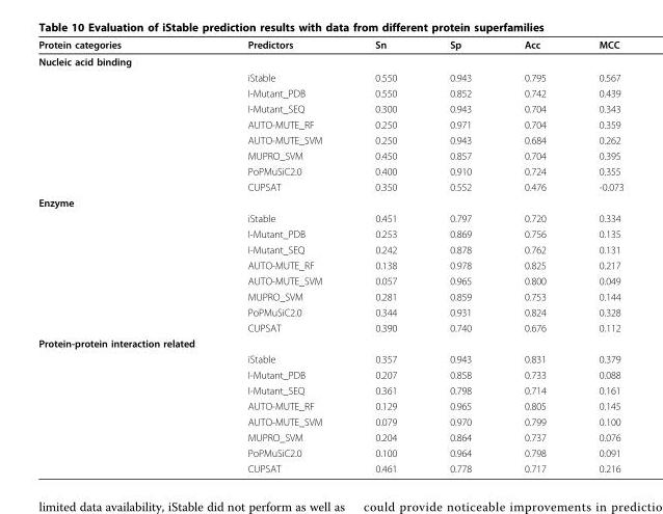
<table><thead><tr><td>Protein categories</td><td>Predictors</td><td>Sn</td><td>Sp</td><td>Acc</td><td>MCC</td></tr></thead><tbody><tr><td colspan="6">Nucleic acid binding</td></tr><tr><td></td><td>iStable</td><td>0.550</td><td>0.943</td><td>0.795</td><td>0.567</td></tr><tr><td></td><td>I-Mutant_PDB</td><td>0.550</td><td>0.852</td><td>0.742</td><td>0.439</td></tr><tr><td></td><td>I-Mutant_SEQ</td><td>0.300</td><td>0.943</td><td>0.704</td><td>0.343</td></tr><tr><td></td><td>AUTO-MUTE_RF</td><td>0.250</td><td>0.971</td><td>0.704</td><td>0.359</td></tr><tr><td></td><td>AUTO-MUTE_SVM</td><td>0.250</td><td>0.943</td><td>0.684</td><td>0.262</td></tr><tr><td></td><td>MUPRO_SVM</td><td>0.450</td><td>0.857</td><td>0.704</td><td>0.395</td></tr><tr><td></td><td>PoPMuSiC2.0</td><td>0.400</td><td>0.910</td><td>0.724</td><td>0.355</td></tr><tr><td></td><td>CUPSAT</td><td>0.350</td><td>0.552</td><td>0.476</td><td>-0.073</td></tr><tr><td colspan="6">Enzyme</td></tr><tr><td></td><td>iStable</td><td>0.451</td><td>0.797</td><td>0.720</td><td>0.334</td></tr><tr><td></td><td>I-Mutant_PDB</td><td>0.253</td><td>0.869</td><td>0.756</td><td>0.135</td></tr><tr><td></td><td>I-Mutant_SEQ</td><td>0.242</td><td>0.878</td><td>0.762</td><td>0.131</td></tr><tr><td></td><td>AUTO-MUTE_RF</td><td>0.138</td><td>0.978</td><td>0.825</td><td>0.217</td></tr><tr><td></td><td>AUTO-MUTE_SVM</td><td>0.057</td><td>0.965</td><td>0.800</td><td>0.049</td></tr><tr><td></td><td>MUPRO_SVM</td><td>0.281</td><td>0.859</td><td>0.753</td><td>0.144</td></tr><tr><td></td><td>PoPMuSiC2.0</td><td>0.344</td><td>0.931</td><td>0.824</td><td>0.328</td></tr><tr><td></td><td>CUPSAT</td><td>0.390</td><td>0.740</td><td>0.676</td><td>0.112</td></tr><tr><td colspan="6">Protein-protein interaction related</td></tr><tr><td></td><td>iStable</td><td>0.357</td><td>0.943</td><td>0.831</td><td>0.379</td></tr><tr><td></td><td>I-Mutant_PDB</td><td>0.207</td><td>0.858</td><td>0.733</td><td>0.088</td></tr><tr><td></td><td>I-Mutant_SEQ</td><td>0.361</td><td>0.798</td><td>0.714</td><td>0.161</td></tr><tr><td></td><td>AUTO-MUTE_RF</td><td>0.129</td><td>0.965</td><td>0.805</td><td>0.145</td></tr><tr><td></td><td>AUTO-MUTE_SVM</td><td>0.079</td><td>0.970</td><td>0.799</td><td>0.100</td></tr><tr><td></td><td>MUPRO_SVM</td><td>0.204</td><td>0.864</td><td>0.737</td><td>0.076</td></tr><tr><td></td><td>PoPMuSiC2.0</td><td>0.100</td><td>0.964</td><td>0.798</td><td>0.091</td></tr><tr><td></td><td>CUPSAT</td><td>0.461</td><td>0.778</td><td>0.717</td><td>0.216</td></tr></tbody></table>